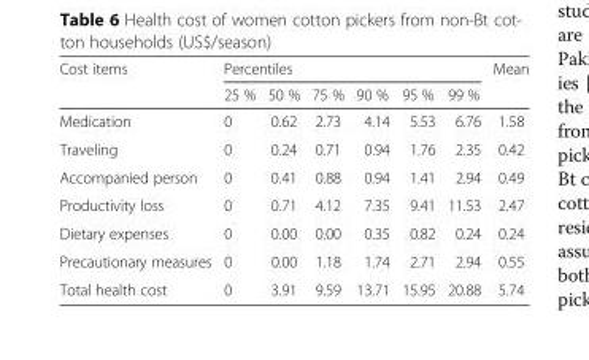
<table><thead><tr><td rowspan="2">Cost items</td><td colspan="6">Percentiles</td><td rowspan="2">Mean</td></tr><tr><td>25 %</td><td>50 %</td><td>75 %</td><td>90 %</td><td>95 %</td><td>99 %</td></tr></thead><tbody><tr><td>Medication</td><td>0</td><td>0.62</td><td>2.73</td><td>4.14</td><td>5.53</td><td>6.76</td><td>1.58</td></tr><tr><td>Traveling</td><td>0</td><td>0.24</td><td>0.71</td><td>0.94</td><td>1.76</td><td>2.35</td><td>0.42</td></tr><tr><td>Accompanied person</td><td>0</td><td>0.41</td><td>0.88</td><td>0.94</td><td>1.41</td><td>2.94</td><td>0.49</td></tr><tr><td>Productivity loss</td><td>0</td><td>0.71</td><td>4.12</td><td>7.35</td><td>9.41</td><td>11.53</td><td>2.47</td></tr><tr><td>Dietary expenses</td><td>0</td><td>0.00</td><td>0.00</td><td>0.35</td><td>0.82</td><td>0.24</td><td>0.24</td></tr><tr><td>Precautionary measures</td><td>0</td><td>0.00</td><td>1.18</td><td>1.74</td><td>2.71</td><td>2.94</td><td>0.55</td></tr><tr><td>Total health cost</td><td>0</td><td>3.91</td><td>9.59</td><td>13.71</td><td>15.95</td><td>20.88</td><td>5.74</td></tr></tbody></table>